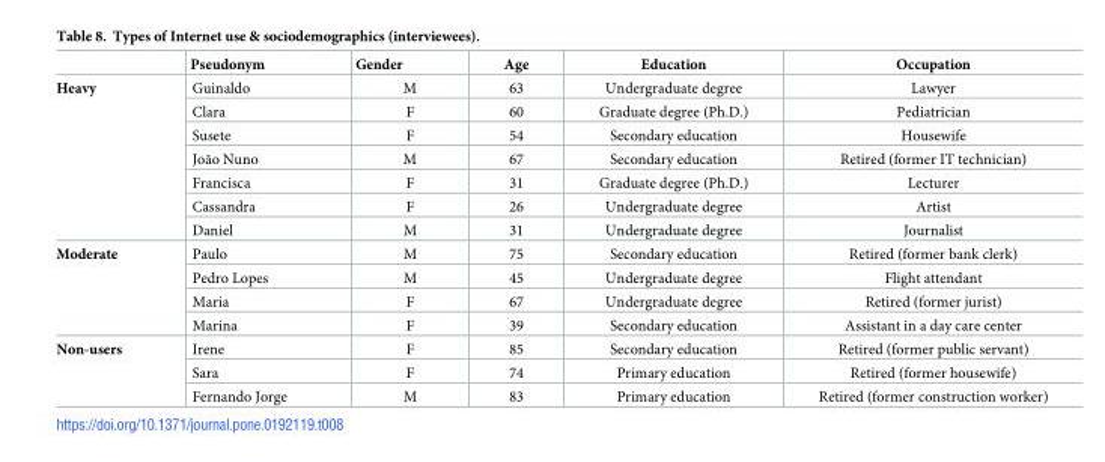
<table><thead><tr><td></td><td>Pseudonym</td><td>Gender</td><td>Age</td><td>Education</td><td>Occupation</td></tr></thead><tbody><tr><td rowspan="7">Heavy</td><td>Guinaldo</td><td>M</td><td>63</td><td>Undergraduate degree</td><td>Lawyer</td></tr><tr><td>Clara</td><td>F</td><td>60</td><td>Graduate degree (Ph.D.)</td><td>Pediatrician</td></tr><tr><td>Susete</td><td>F</td><td>54</td><td>Secondary education</td><td>Housewife</td></tr><tr><td>João Nuno</td><td>M</td><td>67</td><td>Secondary education</td><td>Retired (former IT technician)</td></tr><tr><td>Francisca</td><td>F</td><td>31</td><td>Graduate degree (Ph.D.)</td><td>Lecturer</td></tr><tr><td>Cassandra</td><td>F</td><td>26</td><td>Undergraduate degree</td><td>Artist</td></tr><tr><td>Daniel</td><td>M</td><td>31</td><td>Undergraduate degree</td><td>Journalist</td></tr><tr><td rowspan="4">Moderate</td><td>Paulo</td><td>M</td><td>75</td><td>Secondary education</td><td>Retired (former bank clerk)</td></tr><tr><td>Pedro Lopes</td><td>M</td><td>45</td><td>Undergraduate degree</td><td>Flight attendant</td></tr><tr><td>Maria</td><td>F</td><td>67</td><td>Undergraduate degree</td><td>Retired (former jurist)</td></tr><tr><td>Marina</td><td>F</td><td>39</td><td>Secondary education</td><td>Assistant in a day care center</td></tr><tr><td rowspan="3">Non-users</td><td>Irene</td><td>F</td><td>85</td><td>Secondary education</td><td>Retired (former public servant)</td></tr><tr><td>Sara</td><td>F</td><td>74</td><td>Primary education</td><td>Retired (former housewife)</td></tr><tr><td>Fernando Jorge</td><td>M</td><td>83</td><td>Primary education</td><td>Retired (former construction worker)</td></tr></tbody></table>